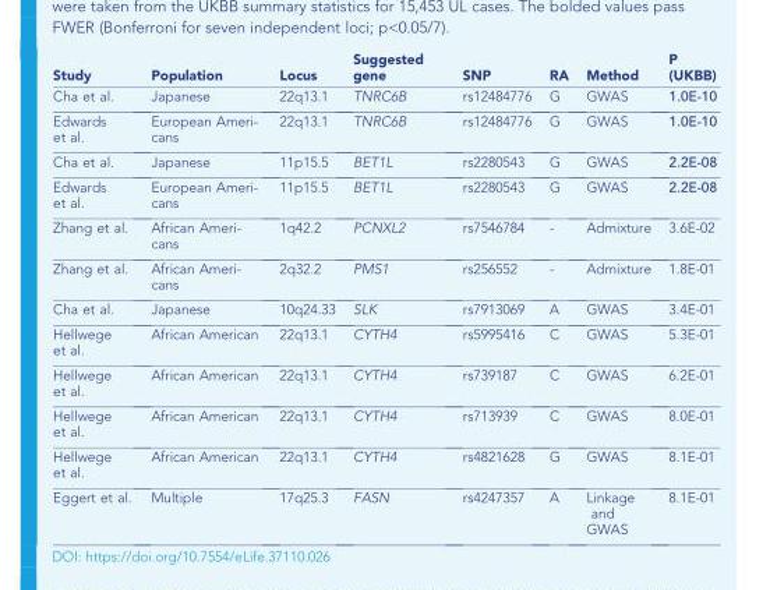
<table><thead><tr><td>Study</td><td>Population</td><td>Locus</td><td>Suggested gene</td><td>SNP</td><td>RA</td><td>Method</td><td>P (UKBB)</td></tr></thead><tbody><tr><td>Cha et al.</td><td>Japanese</td><td>22q13.1</td><td>TNRC6B</td><td>rs12484776</td><td>G</td><td>GWAS</td><td>1.0E-10</td></tr><tr><td>Edwards et al.</td><td>European Ameri- cans</td><td>22q13.1</td><td>TNRC6B</td><td>rs12484776</td><td>G</td><td>GWAS</td><td>1.0E-10</td></tr><tr><td>Cha et al.</td><td>Japanese</td><td>11p15.5</td><td>BET1L</td><td>rs2280543</td><td>G</td><td>GWAS</td><td>2.2E-08</td></tr><tr><td>Edwards et al.</td><td>European Ameri- cans</td><td>11p15.5</td><td>BET1L</td><td>rs2280543</td><td>G</td><td>GWAS</td><td>2.2E-08</td></tr><tr><td>Zhang et al.</td><td>African Ameri- cans</td><td>1q42.2</td><td>PCNXL2</td><td>rs7546784</td><td>-</td><td>Admixture</td><td>3.6E-02</td></tr><tr><td>Zhang et al.</td><td>African Ameri- cans</td><td>2q32.2</td><td>PMS1</td><td>rs256552</td><td>-</td><td>Admixture</td><td>1.8E-01</td></tr><tr><td>Cha et al.</td><td>Japanese</td><td>10q24.33</td><td>SLK</td><td>rs7913069</td><td>A</td><td>GWAS</td><td>3.4E-01</td></tr><tr><td>Hellwege et al.</td><td>African American</td><td>22q13.1</td><td>CYTH4</td><td>rs5995416</td><td>C</td><td>GWAS</td><td>5.3E-01</td></tr><tr><td>Hellwege et al.</td><td>African American</td><td>22q13.1</td><td>CYTH4</td><td>rs739187</td><td>C</td><td>GWAS</td><td>6.2E-01</td></tr><tr><td>Hellwege et al.</td><td>African American</td><td>22q13.1</td><td>CYTH4</td><td>rs713939</td><td>C</td><td>GWAS</td><td>8.0E-01</td></tr><tr><td>Hellwege et al.</td><td>African American</td><td>22q13.1</td><td>CYTH4</td><td>rs4821628</td><td>G</td><td>GWAS</td><td>8.1E-01</td></tr><tr><td>Eggert et al.</td><td>Multiple</td><td>17q25.3</td><td>FASN</td><td>rs4247357</td><td>A</td><td>Linkage and GWAS</td><td>8.1E-01</td></tr></tbody></table>